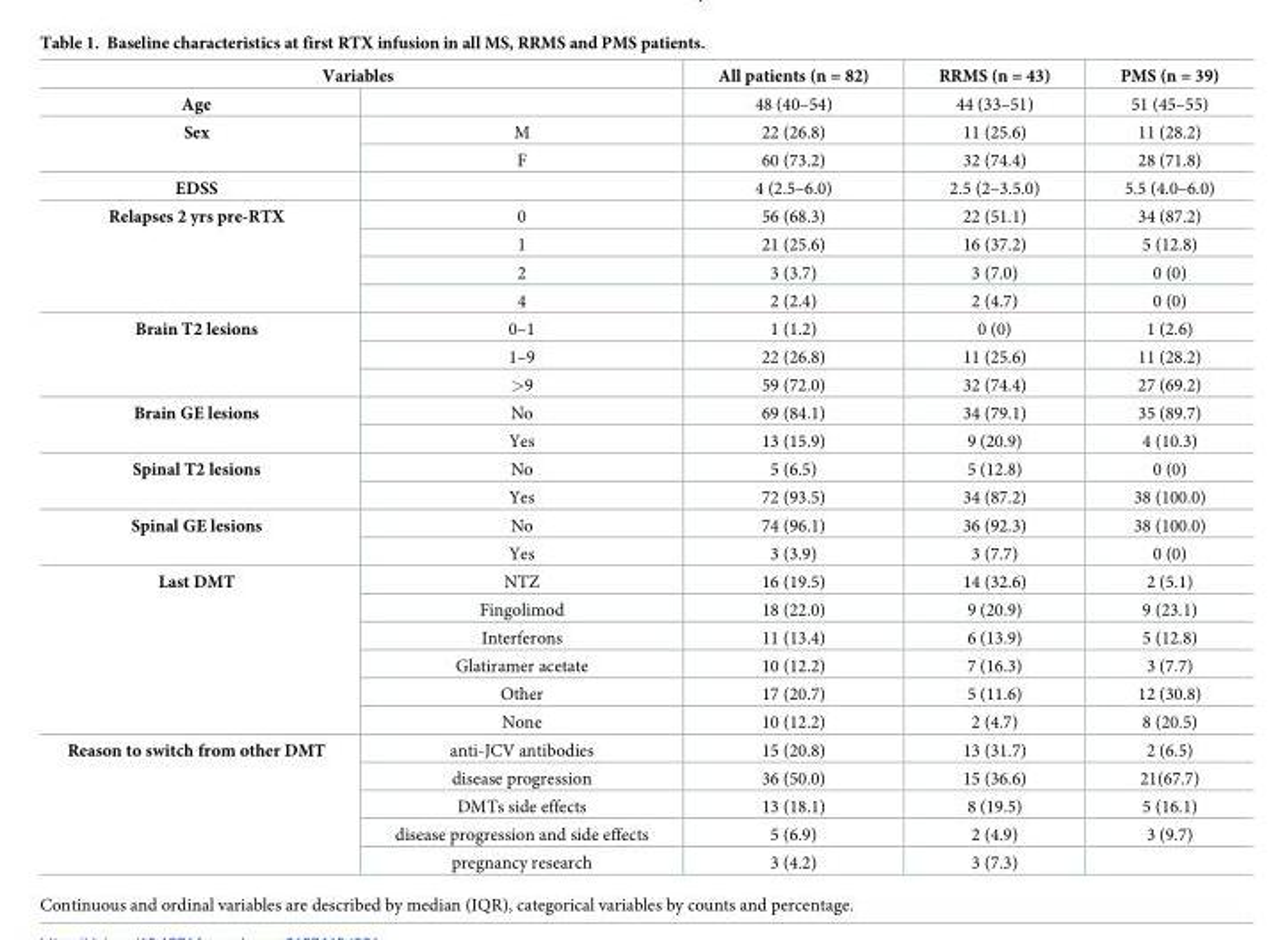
<table><thead><tr><td colspan="2">Variables</td><td rowspan="2">All patients (n = 82) 48 (40–54)</td><td rowspan="2">RRMS (n = 43) 44 (33–51)</td><td rowspan="2">PMS (n = 39) 51 (45–55)</td></tr><tr><td>Age</td><td></td></tr></thead><tbody><tr><td rowspan="2">Sex</td><td>M</td><td>22 (26.8)</td><td>11 (25.6)</td><td>11 (28.2)</td></tr><tr><td>F</td><td>60 (73.2)</td><td>32 (74.4)</td><td>28 (71.8)</td></tr><tr><td>EDSS</td><td></td><td>4 (2.5–6.0)</td><td>2.5 (2–3.5.0)</td><td>5.5 (4.0–6.0)</td></tr><tr><td rowspan="4">Relapses 2 yrs pre-RTX</td><td>0</td><td>56 (68.3)</td><td>22 (51.1)</td><td>34 (87.2)</td></tr><tr><td>1</td><td>21 (25.6)</td><td>16 (37.2)</td><td>5 (12.8)</td></tr><tr><td>2</td><td>3 (3.7)</td><td>3 (7.0)</td><td>0 (0)</td></tr><tr><td>4</td><td>2 (2.4)</td><td>2 (4.7)</td><td>0 (0)</td></tr><tr><td rowspan="3">Brain T2 lesions</td><td>0–1</td><td>1 (1.2)</td><td>0 (0)</td><td>1 (2.6)</td></tr><tr><td>1–9</td><td>22 (26.8)</td><td>11 (25.6)</td><td>11 (28.2)</td></tr><tr><td>&gt;9</td><td>59 (72.0)</td><td>32 (74.4)</td><td>27 (69.2)</td></tr><tr><td rowspan="2">Brain GE lesions</td><td>No</td><td>69 (84.1)</td><td>34 (79.1)</td><td>35 (89.7)</td></tr><tr><td>Yes</td><td>13 (15.9)</td><td>9 (20.9)</td><td>4 (10.3)</td></tr><tr><td rowspan="2">Spinal T2 lesions</td><td>No</td><td>5 (6.5)</td><td>5 (12.8)</td><td>0 (0)</td></tr><tr><td>Yes</td><td>72 (93.5)</td><td>34 (87.2)</td><td>38 (100.0)</td></tr><tr><td rowspan="2">Spinal GE lesions</td><td>No</td><td>74 (96.1)</td><td>36 (92.3)</td><td>38 (100.0)</td></tr><tr><td>Yes</td><td>3 (3.9)</td><td>3 (7.7)</td><td>0 (0)</td></tr><tr><td rowspan="6">Last DMT</td><td>NTZ</td><td>16 (19.5)</td><td>14 (32.6)</td><td>2 (5.1)</td></tr><tr><td>Fingolimod</td><td>18 (22.0)</td><td>9 (20.9)</td><td>9 (23.1)</td></tr><tr><td>Interferons</td><td>11 (13.4)</td><td>6 (13.9)</td><td>5 (12.8)</td></tr><tr><td>Glatiramer acetate</td><td>10 (12.2)</td><td>7 (16.3)</td><td>3 (7.7)</td></tr><tr><td>Other</td><td>17 (20.7)</td><td>5 (11.6)</td><td>12 (30.8)</td></tr><tr><td>None</td><td>10 (12.2)</td><td>2 (4.7)</td><td>8 (20.5)</td></tr><tr><td rowspan="5">Reason to switch from other DMT</td><td>anti-JCV antibodies</td><td>15 (20.8)</td><td>13 (31.7)</td><td>2 (6.5)</td></tr><tr><td>disease progression</td><td>36 (50.0)</td><td>15 (36.6)</td><td>21(67.7)</td></tr><tr><td>DMTs side effects</td><td>13 (18.1)</td><td>8 (19.5)</td><td>5 (16.1)</td></tr><tr><td>disease progression and side effects</td><td>5 (6.9)</td><td>2 (4.9)</td><td>3 (9.7)</td></tr><tr><td>pregnancy research</td><td>3 (4.2)</td><td>3 (7.3)</td><td></td></tr></tbody></table>